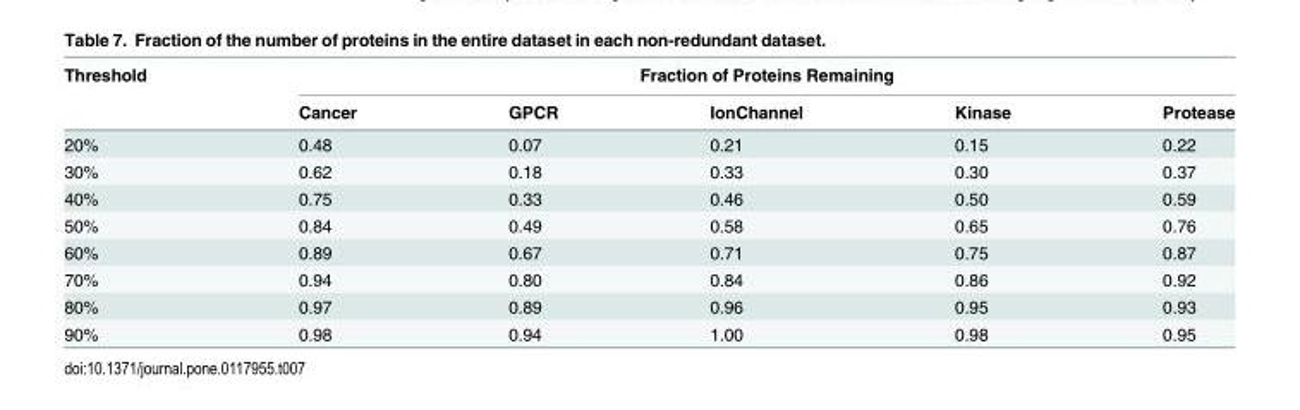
<table><thead><tr><td rowspan="2">Threshold</td><td colspan="5">Fraction of Proteins Remaining</td></tr><tr><td>Cancer</td><td>GPCR</td><td>IonChannel</td><td>Kinase</td><td>Protease</td></tr></thead><tbody><tr><td>20%</td><td>0.48</td><td>0.07</td><td>0.21</td><td>0.15</td><td>0.22</td></tr><tr><td>30%</td><td>0.62</td><td>0.18</td><td>0.33</td><td>0.30</td><td>0.37</td></tr><tr><td>40%</td><td>0.75</td><td>0.33</td><td>0.46</td><td>0.50</td><td>0.59</td></tr><tr><td>50%</td><td>0.84</td><td>0.49</td><td>0.58</td><td>0.65</td><td>0.76</td></tr><tr><td>60%</td><td>0.89</td><td>0.67</td><td>0.71</td><td>0.75</td><td>0.87</td></tr><tr><td>70%</td><td>0.94</td><td>0.80</td><td>0.84</td><td>0.86</td><td>0.92</td></tr><tr><td>80%</td><td>0.97</td><td>0.89</td><td>0.96</td><td>0.95</td><td>0.93</td></tr><tr><td>90%</td><td>0.98</td><td>0.94</td><td>1.00</td><td>0.98</td><td>0.95</td></tr></tbody></table>